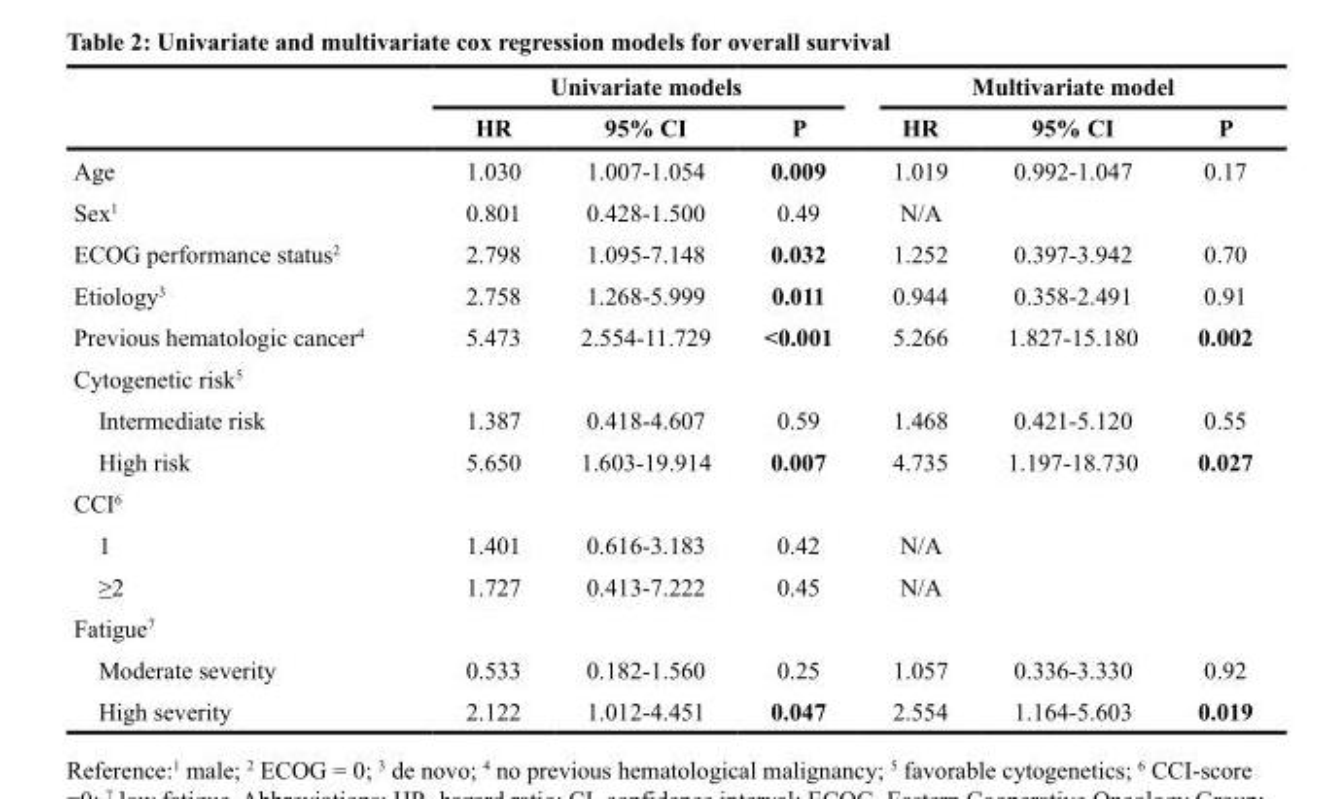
<table><thead><tr><td rowspan="2"></td><td colspan="3">Univariate models</td><td colspan="3">Multivariate model</td></tr><tr><td>HR</td><td>95% CI</td><td>P</td><td>HR</td><td>95% CI</td><td>P</td></tr></thead><tbody><tr><td>Age</td><td>1.030</td><td>1.007-1.054</td><td>0.009</td><td>1.019</td><td>0.992-1.047</td><td>0.17</td></tr><tr><td>Sex<sup>1</sup></td><td>0.801</td><td>0.428-1.500</td><td>0.49</td><td>N/A</td><td></td><td></td></tr><tr><td>ECOG performance status<sup>2</sup></td><td>2.798</td><td>1.095-7.148</td><td>0.032</td><td>1.252</td><td>0.397-3.942</td><td>0.70</td></tr><tr><td>Etiology<sup>3</sup></td><td>2.758</td><td>1.268-5.999</td><td>0.011</td><td>0.944</td><td>0.358-2.491</td><td>0.91</td></tr><tr><td>Previous hematologic cancer<sup>4</sup></td><td>5.473</td><td>2.554-11.729</td><td>&lt;0.001</td><td>5.266</td><td>1.827-15.180</td><td>0.002</td></tr><tr><td colspan="7">Cytogenetic risk<sup>5</sup></td></tr><tr><td>Intermediate risk</td><td>1.387</td><td>0.418-4.607</td><td>0.59</td><td>1.468</td><td>0.421-5.120</td><td>0.55</td></tr><tr><td>High risk</td><td>5.650</td><td>1.603-19.914</td><td>0.007</td><td>4.735</td><td>1.197-18.730</td><td>0.027</td></tr><tr><td colspan="7">CCI<sup>6</sup></td></tr><tr><td>1</td><td>1.401</td><td>0.616-3.183</td><td>0.42</td><td>N/A</td><td></td><td></td></tr><tr><td>≥2</td><td>1.727</td><td>0.413-7.222</td><td>0.45</td><td>N/A</td><td></td><td></td></tr><tr><td colspan="7">Fatigue<sup>7</sup></td></tr><tr><td>Moderate severity</td><td>0.533</td><td>0.182-1.560</td><td>0.25</td><td>1.057</td><td>0.336-3.330</td><td>0.92</td></tr><tr><td>High severity</td><td>2.122</td><td>1.012-4.451</td><td>0.047</td><td>2.554</td><td>1.164-5.603</td><td>0.019</td></tr></tbody></table>